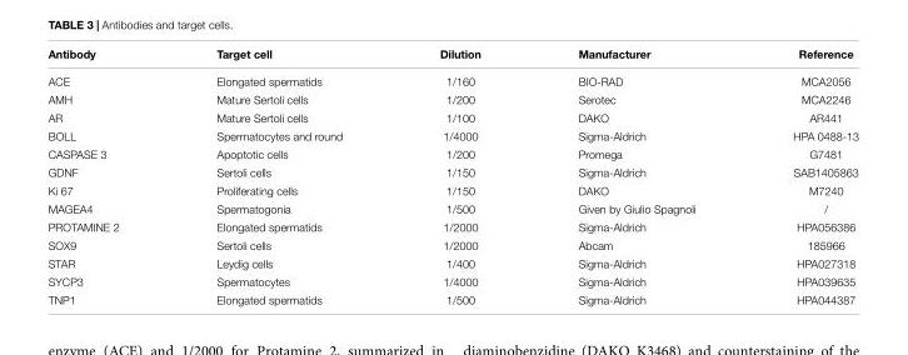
<table><thead><tr><td>Antibody</td><td>Target cell</td><td>Dilution</td><td>Manufacturer</td><td>Reference</td></tr></thead><tbody><tr><td>ACE</td><td>Elongated spermatids</td><td>1/160</td><td>BIO-RAD</td><td>MCA2056</td></tr><tr><td>AMH</td><td>Mature Sertoli cells</td><td>1/200</td><td>Serotec</td><td>MCA2246</td></tr><tr><td>AR</td><td>Mature Sertoli cells</td><td>1/100</td><td>DAKO</td><td>AR441</td></tr><tr><td>BOLL</td><td>Spermatocytes and round</td><td>1/4000</td><td>Sigma-Aldrich</td><td>HPA 0488-13</td></tr><tr><td>CASPASE 3</td><td>Apoptotic cells</td><td>1/200</td><td>Promega</td><td>G7481</td></tr><tr><td>GDNF</td><td>Sertoli cells</td><td>1/150</td><td>Sigma-Aldrich</td><td>SAB1405863</td></tr><tr><td>Ki 67</td><td>Proliferating cells</td><td>1/150</td><td>DAKO</td><td>M7240</td></tr><tr><td>MAGEA4</td><td>Spermatogonia</td><td>1/500</td><td>Given by Giulio Spagnoli</td><td>/</td></tr><tr><td>PROTAMINE 2</td><td>Elongated spermatids</td><td>1/2000</td><td>Sigma-Aldrich</td><td>HPA056386</td></tr><tr><td>SOX9</td><td>Sertoli cells</td><td>1/2000</td><td>Abcam</td><td>185966</td></tr><tr><td>STAR</td><td>Leydig cells</td><td>1/400</td><td>Sigma-Aldrich</td><td>HPA027318</td></tr><tr><td>SYCP3</td><td>Spermatocytes</td><td>1/4000</td><td>Sigma-Aldrich</td><td>HPA039635</td></tr><tr><td>TNP1</td><td>Elongated spermatids</td><td>1/500</td><td>Sigma-Aldrich</td><td>HPA044387</td></tr></tbody></table>